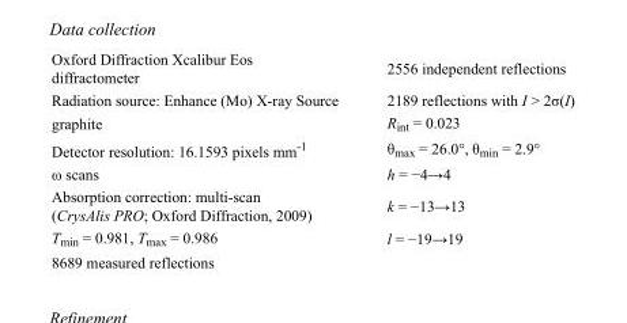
<table><tbody><tr><td>Oxford Diffraction Xcalibur Eos diffractometer</td><td>2556 independent reflections</td></tr><tr><td>Radiation source: Enhance (Mo) X-ray Source</td><td>2189 reflections with I &gt; 2σ(I)</td></tr><tr><td>graphite</td><td>R<sub>int</sub> = 0.023</td></tr><tr><td>Detector resolution: 16.1593 pixels mm<sup>-1</sup></td><td>θ<sub>max</sub> = 26.0°, θ<sub>min</sub> = 2.9°</td></tr><tr><td>ω scans</td><td>h = −4→4</td></tr><tr><td>Absorption correction: multi-scan (CrysAlis PRO; Oxford Diffraction, 2009)</td><td>k = −13→13</td></tr><tr><td>T<sub>min</sub> = 0.981, T<sub>max</sub> = 0.986</td><td>l = −19→19</td></tr><tr><td>8689 measured reflections</td><td></td></tr></tbody></table>